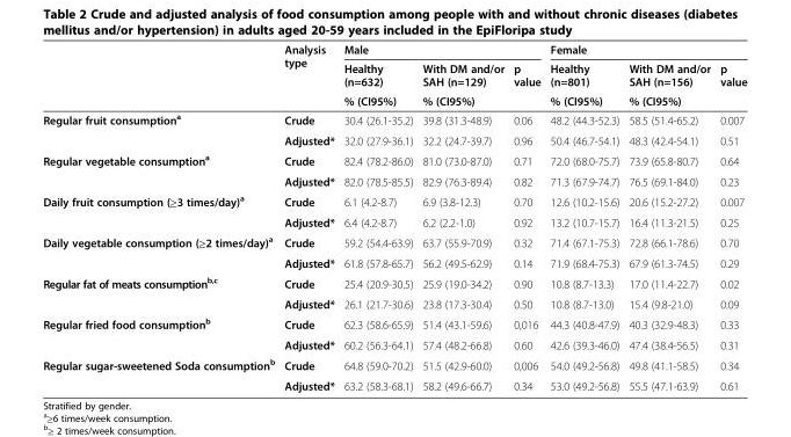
<table><thead><tr><td rowspan="3"></td><td rowspan="3">Analysis type</td><td colspan="3">Male</td><td colspan="3">Female</td></tr><tr><td rowspan="2">Healthy (n=632) % (CI95%)</td><td rowspan="2">With DM and/or SAH (n=129) % (CI95%)</td><td rowspan="2">p value</td><td rowspan="2">Healthy (n=801) % (CI95%)</td><td rowspan="2">With DM and/or SAH (n=156) % (CI95%)</td><td rowspan="2">p value</td></tr><tr></tr></thead><tbody><tr><td rowspan="2">Regular fruit consumption<sup>a</sup></td><td>Crude</td><td>30.4 (26.1-35.2)</td><td>39.8 (31.3-48.9)</td><td>0.06</td><td>48.2 (44.3-52.3)</td><td>58.5 (51.4-65.2)</td><td>0.007</td></tr><tr><td>Adjusted*</td><td>32.0 (27.9-36.1)</td><td>32.2 (24.7-39.7)</td><td>0.96</td><td>50.4 (46.7-54.1)</td><td>48.3 (42.4-54.1)</td><td>0.51</td></tr><tr><td rowspan="2">Regular vegetable consumption<sup>a</sup></td><td>Crude</td><td>82.4 (78.2-86.0)</td><td>81.0 (73.0-87.0)</td><td>0.71</td><td>72.0 (68.0-75.7)</td><td>73.9 (65.8-80.7)</td><td>0.64</td></tr><tr><td>Adjusted*</td><td>82.0 (78.5-85.5)</td><td>82.9 (76.3-89.4)</td><td>0.82</td><td>71.3 (67.9-74.7)</td><td>76.5 (69.1-84.0)</td><td>0.23</td></tr><tr><td rowspan="2">Daily fruit consumption (≥3 times/day)<sup>a</sup></td><td>Crude</td><td>6.1 (4.2-8.7)</td><td>6.9 (3.8-12.3)</td><td>0.70</td><td>12.6 (10.2-15.6)</td><td>20.6 (15.2-27.2)</td><td>0.007</td></tr><tr><td>Adjusted*</td><td>6.4 (4.2-8.7)</td><td>6.2 (2.2-1.0)</td><td>0.92</td><td>13.2 (10.7-15.7)</td><td>16.4 (11.3-21.5)</td><td>0.25</td></tr><tr><td rowspan="2">Daily vegetable consumption (≥2 times/day)<sup>a</sup></td><td>Crude</td><td>59.2 (54.4-63.9)</td><td>63.7 (55.9-70.9)</td><td>0.32</td><td>71.4 (67.1-75.3)</td><td>72.8 (66.1-78.6)</td><td>0.70</td></tr><tr><td>Adjusted*</td><td>61.8 (57.8-65.7)</td><td>56.2 (49.5-62.9)</td><td>0.14</td><td>71.9 (68.4-75.3)</td><td>67.9 (61.3-74.5)</td><td>0.29</td></tr><tr><td rowspan="2">Regular fat of meats consumption<sup>b,c</sup></td><td>Crude</td><td>25.4 (20.9-30.5)</td><td>25.9 (19.0-34.2)</td><td>0.90</td><td>10.8 (8.7-13.3)</td><td>17.0 (11.4-22.7)</td><td>0.02</td></tr><tr><td>Adjusted*</td><td>26.1 (21.7-30.6)</td><td>23.8 (17.3-30.4)</td><td>0.50</td><td>10.8 (8.7-13.0)</td><td>15.4 (9.8-21.0)</td><td>0.09</td></tr><tr><td rowspan="2">Regular fried food consumption<sup>b</sup></td><td>Crude</td><td>62.3 (58.6-65.9)</td><td>51.4 (43.1-59.6)</td><td>0,016</td><td>44.3 (40.8-47.9)</td><td>40.3 (32.9-48.3)</td><td>0.33</td></tr><tr><td>Adjusted*</td><td>60.2 (56.3-64.1)</td><td>57.4 (48.2-66.8)</td><td>0.60</td><td>42.6 (39.3-46.0)</td><td>47.4 (38.4-56.5)</td><td>0.31</td></tr><tr><td rowspan="2">Regular sugar-sweetened Soda consumption<sup>b</sup></td><td>Crude</td><td>64.8 (59.0-70.2)</td><td>51.5 (42.9-60.0)</td><td>0,006</td><td>54.0 (49.2-56.8)</td><td>49.8 (41.1-58.5)</td><td>0.34</td></tr><tr><td>Adjusted*</td><td>63.2 (58.3-68.1)</td><td>58.2 (49.6-66.7)</td><td>0.34</td><td>53.0 (49.2-56.8)</td><td>55.5 (47.1-63.9)</td><td>0.61</td></tr></tbody></table>